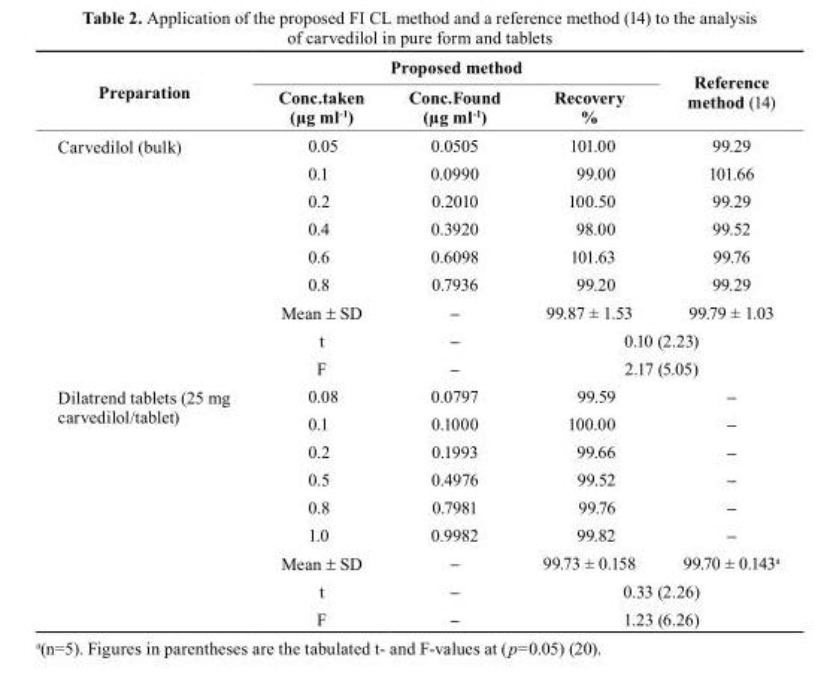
<table><thead><tr><td rowspan="2">Preparation</td><td colspan="3">Proposed method</td><td rowspan="2">reference method (14)</td></tr><tr><td>Conc.taken (µg ml<sup>-1</sup>)</td><td>Conc.Found (µg ml<sup>-1</sup>)</td><td>recovery %</td></tr></thead><tbody><tr><td rowspan="9">Carvedilol (bulk)</td><td>0.05</td><td>0.0505</td><td>101.00</td><td>99.29</td></tr><tr><td>0.1</td><td>0.0990</td><td>99.00</td><td>101.66</td></tr><tr><td>0.2</td><td>0.2010</td><td>100.50</td><td>99.29</td></tr><tr><td>0.4</td><td>0.3920</td><td>98.00</td><td>99.52</td></tr><tr><td>0.6</td><td>0.6098</td><td>101.63</td><td>99.76</td></tr><tr><td>0.8</td><td>0.7936</td><td>99.20</td><td>99.29</td></tr><tr><td>Mean ± SD</td><td>–</td><td>99.87 ± 1.53</td><td>99.79 ± 1.03</td></tr><tr><td>t</td><td>–</td><td colspan="2">0.10 (2.23)</td></tr><tr><td>F</td><td>–</td><td colspan="2">2.17 (5.05)</td></tr><tr><td rowspan="9">Dilatrend tablets (25 mg carvedilol/tablet)</td><td>0.08</td><td>0.0797</td><td>99.59</td><td>–</td></tr><tr><td>0.1</td><td>0.1000</td><td>100.00</td><td>–</td></tr><tr><td>0.2</td><td>0.1993</td><td>99.66</td><td>–</td></tr><tr><td>0.5</td><td>0.4976</td><td>99.52</td><td>–</td></tr><tr><td>0.8</td><td>0.7981</td><td>99.76</td><td>–</td></tr><tr><td>1.0</td><td>0.9982</td><td>99.82</td><td>–</td></tr><tr><td>Mean ± SD</td><td>–</td><td>99.73 ± 0.158</td><td>99.70 ± 0.143<sup>a</sup></td></tr><tr><td>t</td><td>–</td><td colspan="2">0.33 (2.26)</td></tr><tr><td>F</td><td>–</td><td colspan="2">1.23 (6.26)</td></tr></tbody></table>